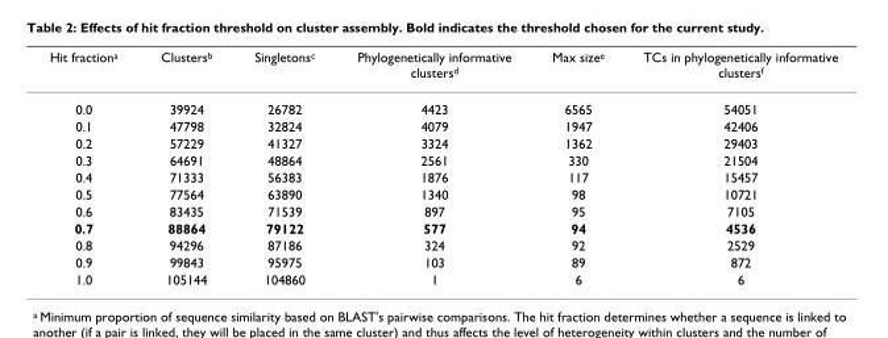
<table><thead><tr><td>Hit fractiona</td><td>Clustersb</td><td>Singletonsc</td><td>Phylogenetically informative clustersd</td><td>Max sizee</td><td>TCs in phylogenetically informative clustersf</td></tr></thead><tbody><tr><td>0.0</td><td>39924</td><td>26782</td><td>4423</td><td>6565</td><td>54051</td></tr><tr><td>0.1</td><td>47798</td><td>32824</td><td>4079</td><td>1947</td><td>42406</td></tr><tr><td>0.2</td><td>57229</td><td>41327</td><td>3324</td><td>1362</td><td>29403</td></tr><tr><td>0.3</td><td>64691</td><td>48864</td><td>2561</td><td>330</td><td>21504</td></tr><tr><td>0.4</td><td>71333</td><td>56383</td><td>1876</td><td>117</td><td>15457</td></tr><tr><td>0.5</td><td>77564</td><td>63890</td><td>1340</td><td>98</td><td>10721</td></tr><tr><td>0.6</td><td>83435</td><td>71539</td><td>897</td><td>95</td><td>7105</td></tr><tr><td>0.7</td><td>88864</td><td>79122</td><td>577</td><td>94</td><td>4536</td></tr><tr><td>0.8</td><td>94296</td><td>87186</td><td>324</td><td>92</td><td>2529</td></tr><tr><td>0.9</td><td>99843</td><td>95975</td><td>103</td><td>89</td><td>872</td></tr><tr><td>1.0</td><td>105144</td><td>104860</td><td>1</td><td>6</td><td>6</td></tr></tbody></table>